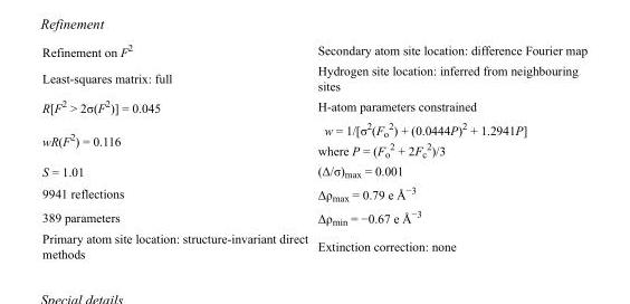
<table><tbody><tr><td>Refinement on F<sup>2</sup></td><td>Secondary atom site location: difference Fourier map</td></tr><tr><td>Least-squares matrix: full</td><td>Hydrogen site location: inferred from neighbouring sites</td></tr><tr><td>R[F<sup>2</sup> &gt; 2σ(F<sup>2</sup>)] = 0.045</td><td>H-atom parameters constrained</td></tr><tr><td>wR(F<sup>2</sup>) = 0.116</td><td>w = 1/[σ<sup>2</sup>(F<sub>o</sub> <sup>2</sup>) + (0.0444P)<sup>2</sup> + 1.2941P] where P = (F<sub>o</sub> <sup>2</sup> + 2F<sub>c</sub> <sup>2</sup>)/3</td></tr><tr><td>S = 1.01</td><td>(Δ/σ)<sub>max</sub> = 0.001</td></tr><tr><td>9941 reflections</td><td>Δρ<sub>max</sub> = 0.79 e Å<sup>−3</sup></td></tr><tr><td>389 parameters</td><td>Δρ<sub>min</sub> = −0.67 e Å<sup>−3</sup></td></tr><tr><td>Primary atom site location: structure-invariant direct methods</td><td>Extinction correction: none</td></tr></tbody></table>